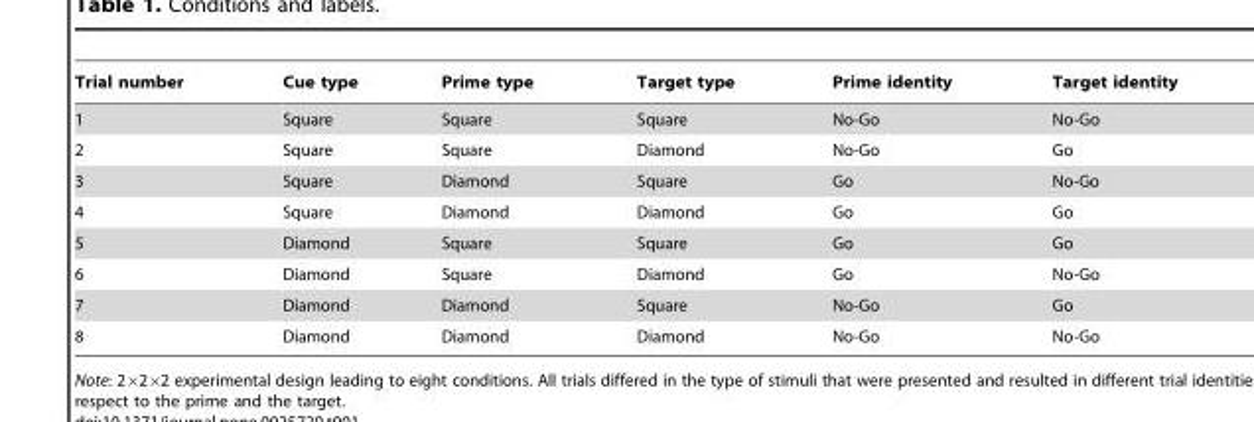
<table><thead><tr><td>Trial number</td><td>Cue type</td><td>Prime type</td><td>Target type</td><td>Prime identity</td><td>Target identity</td></tr></thead><tbody><tr><td>1</td><td>Square</td><td>Square</td><td>Square</td><td>No-Go</td><td>No-Go</td></tr><tr><td>2</td><td>Square</td><td>Square</td><td>Diamond</td><td>No-Go</td><td>Go</td></tr><tr><td>3</td><td>Square</td><td>Diamond</td><td>Square</td><td>Go</td><td>No-Go</td></tr><tr><td>4</td><td>Square</td><td>Diamond</td><td>Diamond</td><td>Go</td><td>Go</td></tr><tr><td>5</td><td>Diamond</td><td>Square</td><td>Square</td><td>Go</td><td>Go</td></tr><tr><td>6</td><td>Diamond</td><td>Square</td><td>Diamond</td><td>Go</td><td>No-Go</td></tr><tr><td>7</td><td>Diamond</td><td>Diamond</td><td>Square</td><td>No-Go</td><td>Go</td></tr><tr><td>8</td><td>Diamond</td><td>Diamond</td><td>Diamond</td><td>No-Go</td><td>No-Go</td></tr></tbody></table>